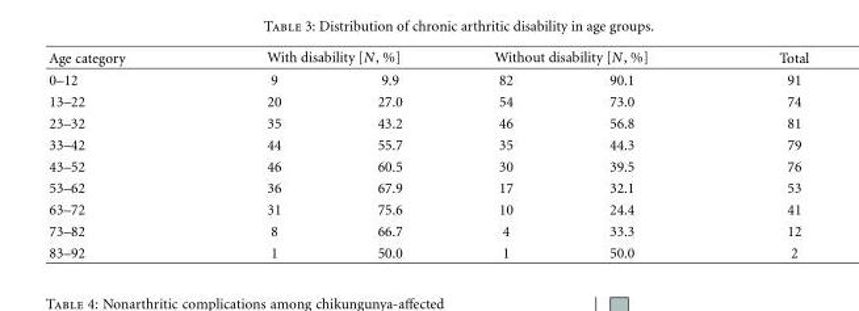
<table><thead><tr><td rowspan="2">Age category 0–12</td><td colspan="2">With disability [N, %]</td><td colspan="2">Without disability [N, %]</td><td rowspan="2">Total 91</td></tr><tr><td>9</td><td>9.9</td><td>82</td><td>90.1</td></tr></thead><tbody><tr><td>13–22</td><td>20</td><td>27.0</td><td>54</td><td>73.0</td><td>74</td></tr><tr><td>23–32</td><td>35</td><td>43.2</td><td>46</td><td>56.8</td><td>81</td></tr><tr><td>33–42</td><td>44</td><td>55.7</td><td>35</td><td>44.3</td><td>79</td></tr><tr><td>43–52</td><td>46</td><td>60.5</td><td>30</td><td>39.5</td><td>76</td></tr><tr><td>53–62</td><td>36</td><td>67.9</td><td>17</td><td>32.1</td><td>53</td></tr><tr><td>63–72</td><td>31</td><td>75.6</td><td>10</td><td>24.4</td><td>41</td></tr><tr><td>73–82</td><td>8</td><td>66.7</td><td>4</td><td>33.3</td><td>12</td></tr><tr><td>83–92</td><td>1</td><td>50.0</td><td>1</td><td>50.0</td><td>2</td></tr></tbody></table>